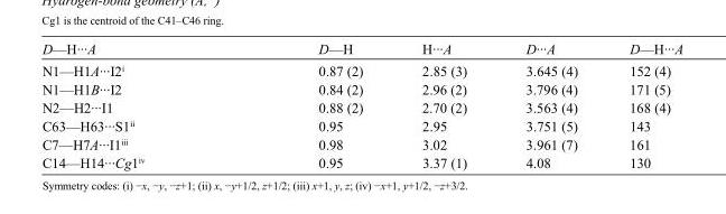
<table><tbody><tr><td>D—H···A</td><td>D—H</td><td>H···A</td><td>D···A</td><td>D—H···A</td></tr><tr><td>N1—H1A···I2<sup>i</sup></td><td>0.87 (2)</td><td>2.85 (3)</td><td>3.645 (4)</td><td>152 (4)</td></tr><tr><td>N1—H1B···I2</td><td>0.84 (2)</td><td>2.96 (2)</td><td>3.796 (4)</td><td>171 (5)</td></tr><tr><td>N2—H2···I1</td><td>0.88 (2)</td><td>2.70 (2)</td><td>3.563 (4)</td><td>168 (4)</td></tr><tr><td>C63—H63···S1<sup>ii</sup></td><td>0.95</td><td>2.95</td><td>3.751 (5)</td><td>143</td></tr><tr><td>C7—H7A···I1<sup>iii</sup></td><td>0.98</td><td>3.02</td><td>3.961 (7)</td><td>161</td></tr><tr><td>C14—H14···Cg1<sup>iv</sup></td><td>0.95</td><td>3.37 (1)</td><td>4.08</td><td>130</td></tr></tbody></table>